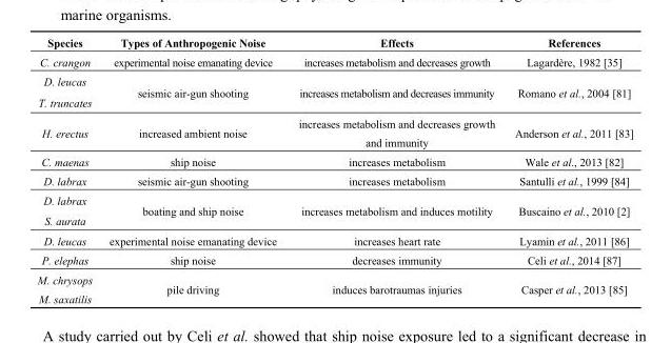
<table><thead><tr><td>Species</td><td>Types of Anthropogenic Noise</td><td>Effects</td><td>References</td></tr></thead><tbody><tr><td>C. crangon</td><td>experimental noise emanating device</td><td>increases metabolism and decreases growth</td><td>Lagardère, 1982 [35]</td></tr><tr><td>D. leucas</td><td rowspan="2">seismic air-gun shooting</td><td rowspan="2">increases metabolism and decreases immunity</td><td rowspan="2">Romano et al., 2004 [81]</td></tr><tr><td>T. truncates</td></tr><tr><td>H. erectus</td><td>increased ambient noise</td><td>increases metabolism and decreases growth and immunity</td><td>Anderson et al., 2011 [83]</td></tr><tr><td>C. maenas</td><td>ship noise</td><td>increases metabolism</td><td>Wale et al., 2013 [82]</td></tr><tr><td>D. labrax</td><td>seismic air-gun shooting</td><td>increases metabolism</td><td>Santulli et al., 1999 [84]</td></tr><tr><td>D. labrax</td><td rowspan="2">boating and ship noise</td><td rowspan="2">increases metabolism and induces motility</td><td rowspan="2">Buscaino et al., 2010 [2]</td></tr><tr><td>S. aurata</td></tr><tr><td>D. leucas</td><td>experimental noise emanating device</td><td>increases heart rate</td><td>Lyamin et al., 2011 [86]</td></tr><tr><td>P. elephas</td><td>ship noise</td><td>decreases immunity</td><td>Celi et al., 2014 [87]</td></tr><tr><td>M. chrysops</td><td rowspan="2">pile driving</td><td rowspan="2">induces barotraumas injuries</td><td rowspan="2">Casper et al., 2013 [85]</td></tr><tr><td>M. saxatilis</td></tr></tbody></table>